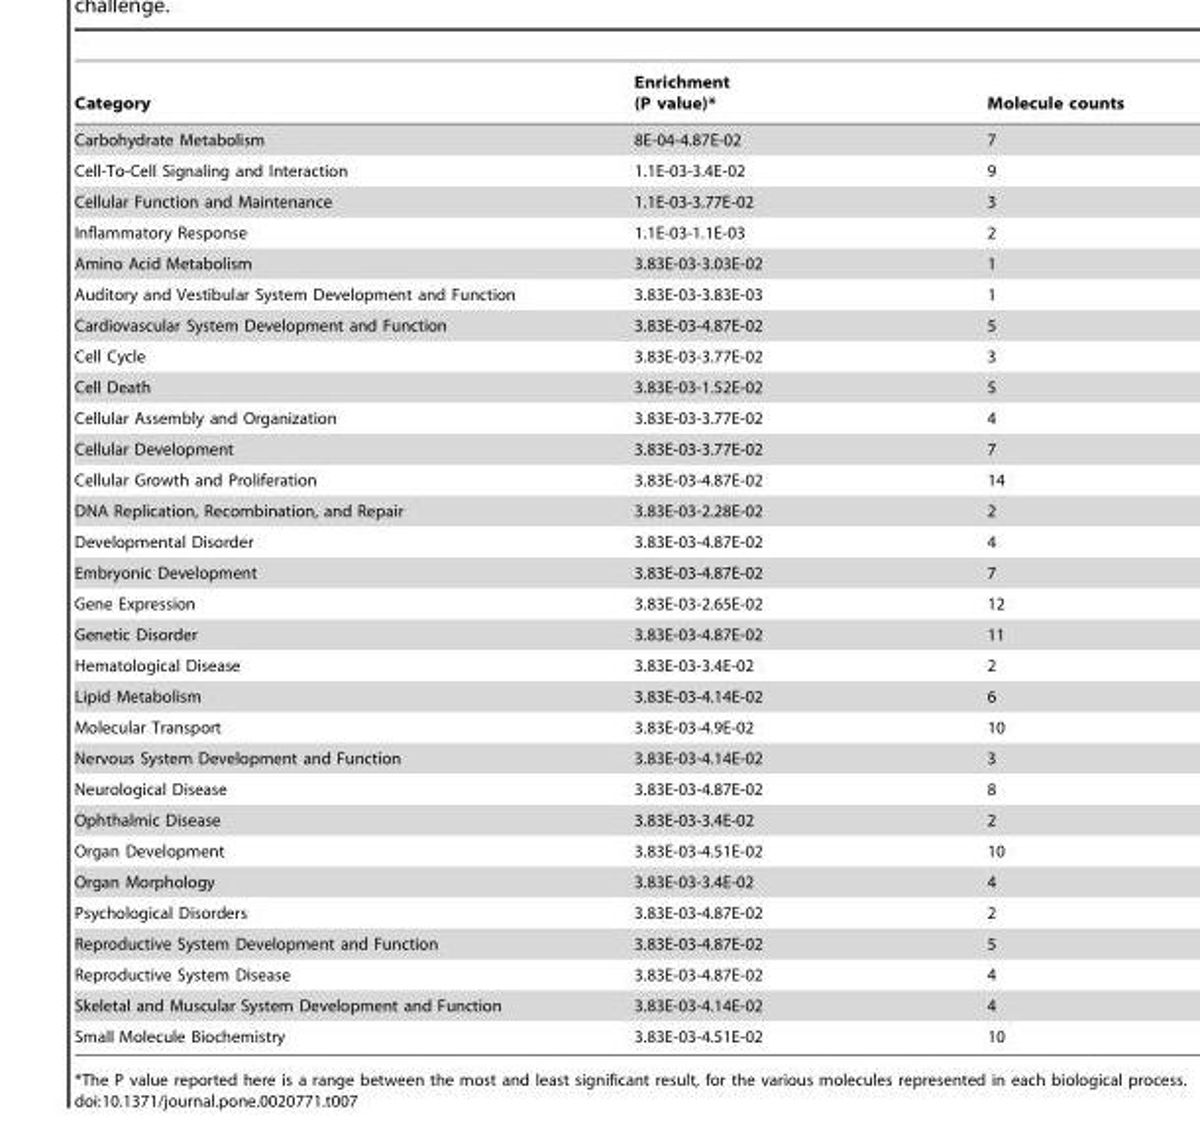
<table><thead><tr><td>Category</td><td>Enrichment (P value)*</td><td>Molecule counts</td></tr></thead><tbody><tr><td>Carbohydrate Metabolism</td><td>8E-04-4.87E-02</td><td>7</td></tr><tr><td>Cell-To-Cell Signaling and Interaction</td><td>1.1E-03-3.4E-02</td><td>9</td></tr><tr><td>Cellular Function and Maintenance</td><td>1.1E-03-3.77E-02</td><td>3</td></tr><tr><td>Inflammatory Response</td><td>1.1E-03-1.1E-03</td><td>2</td></tr><tr><td>Amino Acid Metabolism</td><td>3.83E-03-3.03E-02</td><td>1</td></tr><tr><td>Auditory and Vestibular System Development and Function</td><td>3.83E-03-3.83E-03</td><td>1</td></tr><tr><td>Cardiovascular System Development and Function</td><td>3.83E-03-4.87E-02</td><td>5</td></tr><tr><td>Cell Cycle</td><td>3.83E-03-3.77E-02</td><td>3</td></tr><tr><td>Cell Death</td><td>3.83E-03-1.52E-02</td><td>5</td></tr><tr><td>Cellular Assembly and Organization</td><td>3.83E-03-3.77E-02</td><td>4</td></tr><tr><td>Cellular Development</td><td>3.83E-03-3.77E-02</td><td>7</td></tr><tr><td>Cellular Growth and Proliferation</td><td>3.83E-03-4.87E-02</td><td>14</td></tr><tr><td>DNA Replication, Recombination, and Repair</td><td>3.83E-03-2.28E-02</td><td>2</td></tr><tr><td>Developmental Disorder</td><td>3.83E-03-4.87E-02</td><td>4</td></tr><tr><td>Embryonic Development</td><td>3.83E-03-4.87E-02</td><td>7</td></tr><tr><td>Gene Expression</td><td>3.83E-03-2.65E-02</td><td>12</td></tr><tr><td>Genetic Disorder</td><td>3.83E-03-4.87E-02</td><td>11</td></tr><tr><td>Hematological Disease</td><td>3.83E-03-3.4E-02</td><td>2</td></tr><tr><td>Lipid Metabolism</td><td>3.83E-03-4.14E-02</td><td>6</td></tr><tr><td>Molecular Transport</td><td>3.83E-03-4.9E-02</td><td>10</td></tr><tr><td>Nervous System Development and Function</td><td>3.83E-03-4.14E-02</td><td>3</td></tr><tr><td>Neurological Disease</td><td>3.83E-03-4.87E-02</td><td>8</td></tr><tr><td>Ophthalmic Disease</td><td>3.83E-03-3.4E-02</td><td>2</td></tr><tr><td>Organ Development</td><td>3.83E-03-4.51E-02</td><td>10</td></tr><tr><td>Organ Morphology</td><td>3.83E-03-3.4E-02</td><td>4</td></tr><tr><td>Psychological Disorders</td><td>3.83E-03-4.87E-02</td><td>2</td></tr><tr><td>Reproductive System Development and Function</td><td>3.83E-03-4.87E-02</td><td>5</td></tr><tr><td>Reproductive System Disease</td><td>3.83E-03-4.87E-02</td><td>4</td></tr><tr><td>Skeletal and Muscular System Development and Function</td><td>3.83E-03-4.14E-02</td><td>4</td></tr><tr><td>Small Molecule Biochemistry</td><td>3.83E-03-4.51E-02</td><td>10</td></tr></tbody></table>